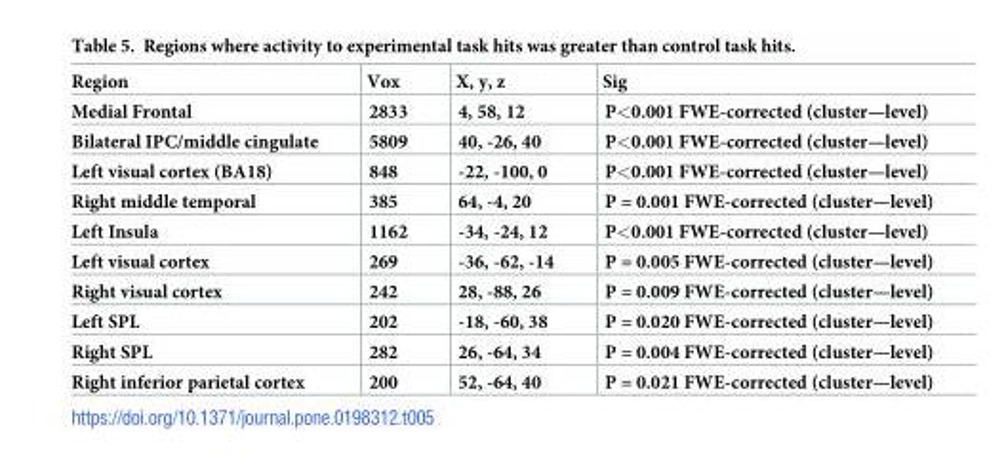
<table><thead><tr><td>Region</td><td>Vox</td><td>X, y, z</td><td>Sig</td></tr></thead><tbody><tr><td>Medial Frontal</td><td>2833</td><td>4, 58, 12</td><td>P&lt;0.001 FWE-corrected (cluster—level)</td></tr><tr><td>Bilateral IPC/middle cingulate</td><td>5809</td><td>40, -26, 40</td><td>P&lt;0.001 FWE-corrected (cluster—level)</td></tr><tr><td>Left visual cortex (BA18)</td><td>848</td><td>-22, -100, 0</td><td>P&lt;0.001 FWE-corrected (cluster—level)</td></tr><tr><td>Right middle temporal</td><td>385</td><td>64, -4, 20</td><td>P = 0.001 FWE-corrected (cluster—level)</td></tr><tr><td>Left Insula</td><td>1162</td><td>-34, -24, 12</td><td>P&lt;0.001 FWE-corrected (cluster—level)</td></tr><tr><td>Left visual cortex</td><td>269</td><td>-36, -62, -14</td><td>P = 0.005 FWE-corrected (cluster—level)</td></tr><tr><td>Right visual cortex</td><td>242</td><td>28, -88, 26</td><td>P = 0.009 FWE-corrected (cluster—level)</td></tr><tr><td>Left SPL</td><td>202</td><td>-18, -60, 38</td><td>P = 0.020 FWE-corrected (cluster—level)</td></tr><tr><td>Right SPL</td><td>282</td><td>26, -64, 34</td><td>P = 0.004 FWE-corrected (cluster—level)</td></tr><tr><td>Right inferior parietal cortex</td><td>200</td><td>52, -64, 40</td><td>P = 0.021 FWE-corrected (cluster—level)</td></tr></tbody></table>